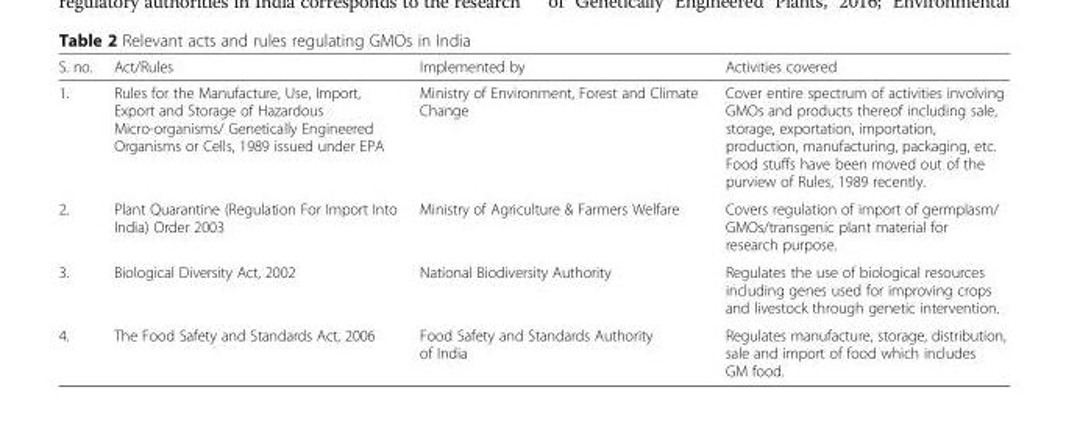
<table><thead><tr><td>S. no.</td><td>Act/Rules</td><td>Implemented by</td><td>Activities covered</td></tr></thead><tbody><tr><td>1.</td><td>Rules for the Manufacture, Use, Import, Export and Storage of Hazardous Micro-organisms/ Genetically Engineered Organisms or Cells, 1989 issued under EPA</td><td>Ministry of Environment, Forest and Climate Change</td><td>Cover entire spectrum of activities involving GMOs and products thereof including sale, storage, exportation, importation, production, manufacturing, packaging, etc. Food stuffs have been moved out of the purview of Rules, 1989 recently.</td></tr><tr><td>2.</td><td>Plant Quarantine (Regulation For Import Into India) Order 2003</td><td>Ministry of Agriculture &amp; Farmers Welfare</td><td>Covers regulation of import of germplasm/ GMOs/transgenic plant material for research purpose.</td></tr><tr><td>3.</td><td>Biological Diversity Act, 2002</td><td>National Biodiversity Authority</td><td>Regulates the use of biological resources including genes used for improving crops and livestock through genetic intervention.</td></tr><tr><td>4.</td><td>The Food Safety and Standards Act, 2006</td><td>Food Safety and Standards Authority of India</td><td>Regulates manufacture, storage, distribution, sale and import of food which includes GM food.</td></tr></tbody></table>